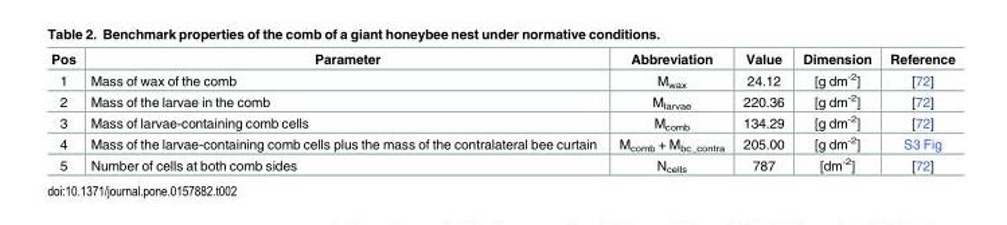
<table><thead><tr><td>Pos</td><td>Parameter</td><td>Abbreviation</td><td>Value</td><td>Dimension</td><td>Reference</td></tr></thead><tbody><tr><td>1</td><td>Mass of wax of the comb</td><td>M<sub>wax</sub></td><td>24.12</td><td>[g dm<sup>-2</sup>]</td><td>[72]</td></tr><tr><td>2</td><td>Mass of the larvae in the comb</td><td>M<sub>larvae</sub></td><td>220.36</td><td>[g dm<sup>-2</sup>]</td><td>[72]</td></tr><tr><td>3</td><td>Mass of larvae-containing comb cells</td><td>M<sub>comb</sub></td><td>134.29</td><td>[g dm<sup>-2</sup>]</td><td>[72]</td></tr><tr><td>4</td><td>Mass of the larvae-containing comb cells plus the mass of the contralateral bee curtain</td><td>M<sub>comb</sub> + M<sub>bc_contra</sub></td><td>205.00</td><td>[g dm<sup>-2</sup>]</td><td>S3 Fig</td></tr><tr><td>5</td><td>Number of cells at both comb sides</td><td>N<sub>cells</sub></td><td>787</td><td>[dm<sup>-2</sup>]</td><td>[72]</td></tr></tbody></table>